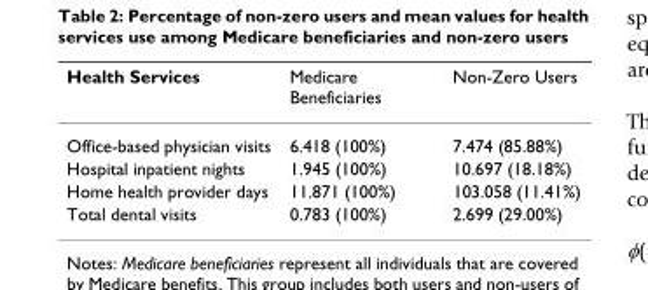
<table><thead><tr><td>Health Services</td><td>Medicare Beneficiaries</td><td>Non-Zero Users</td></tr></thead><tbody><tr><td>Office-based physician visits</td><td>6.418 (100%)</td><td>7.474 (85.88%)</td></tr><tr><td>Hospital inpatient nights</td><td>1.945 (100%)</td><td>10.697 (18.18%)</td></tr><tr><td>Home health provider days</td><td>11.871 (100%)</td><td>103.058 (11.41%)</td></tr><tr><td>Total dental visits</td><td>0.783 (100%)</td><td>2.699 (29.00%)</td></tr></tbody></table>